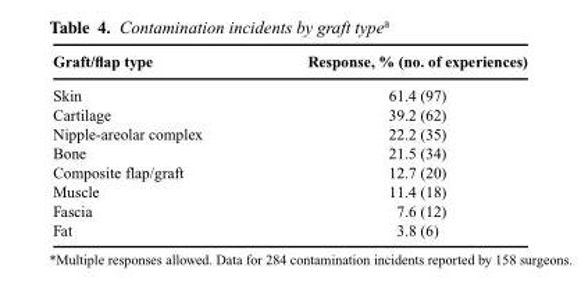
<table><thead><tr><td>Graft/flap type</td><td>Response, % (no. of experiences)</td></tr></thead><tbody><tr><td>Skin</td><td>61.4 (97)</td></tr><tr><td>Cartilage</td><td>39.2 (62)</td></tr><tr><td>Nipple-areolar complex</td><td>22.2 (35)</td></tr><tr><td>Bone</td><td>21.5 (34)</td></tr><tr><td>Composite flap/graft</td><td>12.7 (20)</td></tr><tr><td>Muscle</td><td>11.4 (18)</td></tr><tr><td>Fascia</td><td>7.6 (12)</td></tr><tr><td>Fat</td><td>3.8 (6)</td></tr></tbody></table>